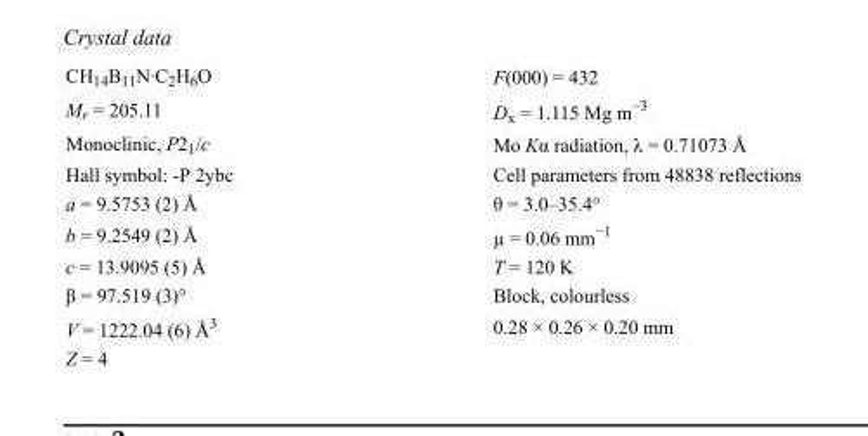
<table><tbody><tr><td>CH<sub>14</sub>B<sub>11</sub>N·C<sub>2</sub>H<sub>6</sub>O</td><td>F(000) = 432</td></tr><tr><td>M<sub>r</sub> = 205.11</td><td>D<sub>x</sub> = 1.115 Mg m<sup>−3</sup></td></tr><tr><td>Monoclinic, P2<sub>1</sub>/c</td><td>Mo Kα radiation, λ = 0.71073 Å</td></tr><tr><td>Hall symbol: -P 2ybc</td><td>Cell parameters from 48838 reflections</td></tr><tr><td>a = 9.5753 (2) Å</td><td>θ = 3.0–35.4°</td></tr><tr><td>b = 9.2549 (2) Å</td><td>µ = 0.06 mm<sup>−1</sup></td></tr><tr><td>c = 13.9095 (5) Å</td><td>T = 120 K</td></tr><tr><td>β = 97.519 (3)°</td><td>Block, colourless</td></tr><tr><td>V = 1222.04 (6) Å<sup>3</sup></td><td>0.28 × 0.26 × 0.20 mm</td></tr><tr><td>Z = 4</td><td></td></tr></tbody></table>